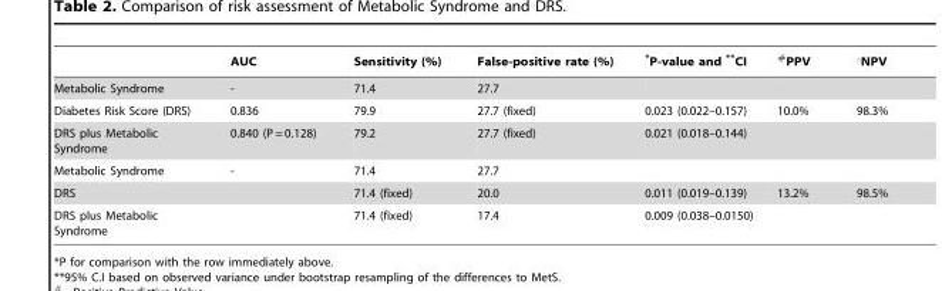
<table><thead><tr><td></td><td>AUC</td><td>Sensitivity (%)</td><td>False-positive rate (%)</td><td>*P-value and **CI</td><td>#PPV</td><td>‘NPV</td></tr></thead><tbody><tr><td>Metabolic Syndrome</td><td>-</td><td>71.4</td><td>27.7</td><td></td><td></td><td></td></tr><tr><td>Diabetes Risk Score (DRS)</td><td>0.836</td><td>79.9</td><td>27.7 (fixed)</td><td>0.023 (0.022–0.157)</td><td>10.0%</td><td>98.3%</td></tr><tr><td>DRS plus Metabolic Syndrome</td><td>0.840 (P = 0.128)</td><td>79.2</td><td>27.7 (fixed)</td><td>0.021 (0.018–0.144)</td><td></td><td></td></tr><tr><td>Metabolic Syndrome</td><td>-</td><td>71.4</td><td>27.7</td><td></td><td></td><td></td></tr><tr><td>DRS</td><td></td><td>71.4 (fixed)</td><td>20.0</td><td>0.011 (0.019–0.139)</td><td>13.2%</td><td>98.5%</td></tr><tr><td>DRS plus Metabolic Syndrome</td><td></td><td>71.4 (fixed)</td><td>17.4</td><td>0.009 (0.038–0.0150)</td><td></td><td></td></tr></tbody></table>